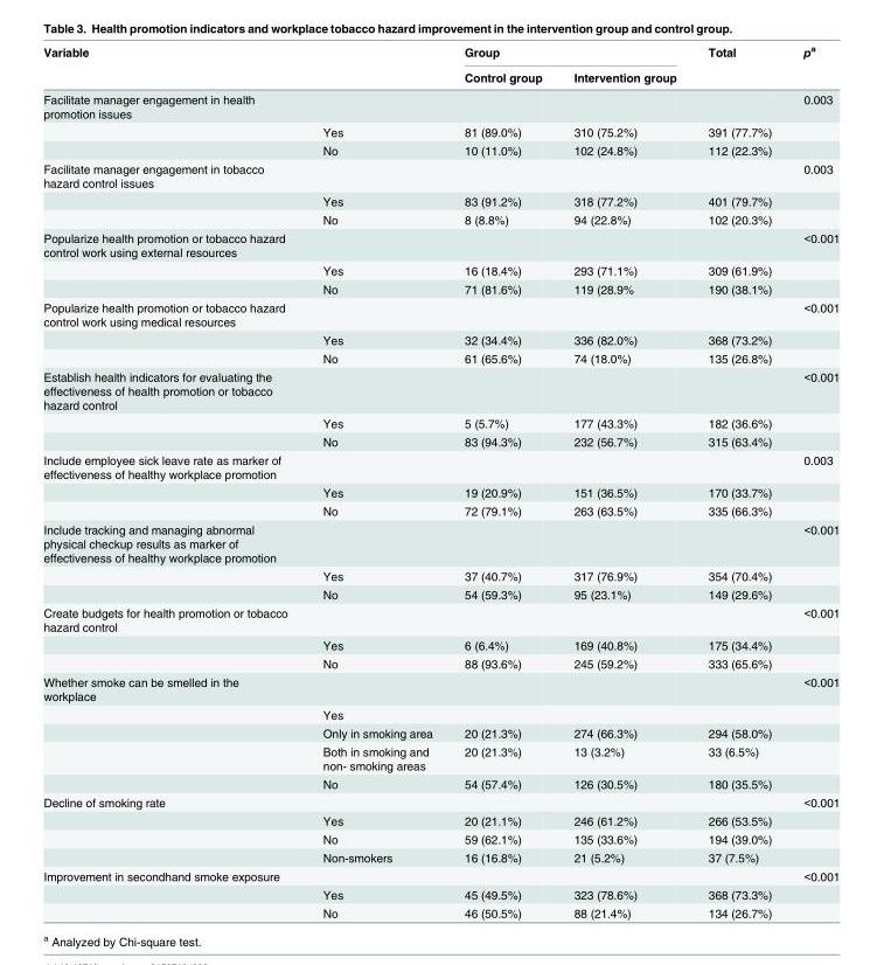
<table><thead><tr><td rowspan="2">Variable</td><td rowspan="2"></td><td colspan="2">Group</td><td rowspan="2">Total</td><td rowspan="2">p<sup>a</sup></td></tr><tr><td>Control group</td><td>Intervention group</td></tr></thead><tbody><tr><td rowspan="3">Facilitate manager engagement in health promotion issues</td><td></td><td></td><td></td><td></td><td>0.003</td></tr><tr><td>Yes</td><td>81 (89.0%)</td><td>310 (75.2%)</td><td>391 (77.7%)</td><td></td></tr><tr><td>No</td><td>10 (11.0%)</td><td>102 (24.8%)</td><td>112 (22.3%)</td><td></td></tr><tr><td rowspan="3">Facilitate manager engagement in tobacco hazard control issues</td><td></td><td></td><td></td><td></td><td>0.003</td></tr><tr><td>Yes</td><td>83 (91.2%)</td><td>318 (77.2%)</td><td>401 (79.7%)</td><td></td></tr><tr><td>No</td><td>8 (8.8%)</td><td>94 (22.8%)</td><td>102 (20.3%)</td><td></td></tr><tr><td rowspan="3">Popularize health promotion or tobacco hazard control work using external resources</td><td></td><td></td><td></td><td></td><td>&lt;0.001</td></tr><tr><td>Yes</td><td>16 (18.4%)</td><td>293 (71.1%)</td><td>309 (61.9%)</td><td></td></tr><tr><td>No</td><td>71 (81.6%)</td><td>119 (28.9%</td><td>190 (38.1%)</td><td></td></tr><tr><td rowspan="3">Popularize health promotion or tobacco hazard control work using medical resources</td><td></td><td></td><td></td><td></td><td>&lt;0.001</td></tr><tr><td>Yes</td><td>32 (34.4%)</td><td>336 (82.0%)</td><td>368 (73.2%)</td><td></td></tr><tr><td>No</td><td>61 (65.6%)</td><td>74 (18.0%)</td><td>135 (26.8%)</td><td></td></tr><tr><td rowspan="3">Establish health indicators for evaluating the effectiveness of health promotion or tobacco hazard control</td><td></td><td></td><td></td><td></td><td>&lt;0.001</td></tr><tr><td>Yes</td><td>5 (5.7%)</td><td>177 (43.3%)</td><td>182 (36.6%)</td><td></td></tr><tr><td>No</td><td>83 (94.3%)</td><td>232 (56.7%)</td><td>315 (63.4%)</td><td></td></tr><tr><td rowspan="3">Include employee sick leave rate as marker of effectiveness of healthy workplace promotion</td><td></td><td></td><td></td><td></td><td>0.003</td></tr><tr><td>Yes</td><td>19 (20.9%)</td><td>151 (36.5%)</td><td>170 (33.7%)</td><td></td></tr><tr><td>No</td><td>72 (79.1%)</td><td>263 (63.5%)</td><td>335 (66.3%)</td><td></td></tr><tr><td rowspan="3">Include tracking and managing abnormal physical checkup results as marker of effectiveness of healthy workplace promotion</td><td></td><td></td><td></td><td></td><td>&lt;0.001</td></tr><tr><td>Yes</td><td>37 (40.7%)</td><td>317 (76.9%)</td><td>354 (70.4%)</td><td></td></tr><tr><td>No</td><td>54 (59.3%)</td><td>95 (23.1%)</td><td>149 (29.6%)</td><td></td></tr><tr><td rowspan="3">Create budgets for health promotion or tobacco hazard control</td><td></td><td></td><td></td><td></td><td>&lt;0.001</td></tr><tr><td>Yes</td><td>6 (6.4%)</td><td>169 (40.8%)</td><td>175 (34.4%)</td><td></td></tr><tr><td>No</td><td>88 (93.6%)</td><td>245 (59.2%)</td><td>333 (65.6%)</td><td></td></tr><tr><td rowspan="5">Whether smoke can be smelled in the workplace</td><td></td><td></td><td></td><td></td><td>&lt;0.001</td></tr><tr><td>Yes</td><td></td><td></td><td></td><td></td></tr><tr><td>Only in smoking area</td><td>20 (21.3%)</td><td>274 (66.3%)</td><td>294 (58.0%)</td><td></td></tr><tr><td>Both in smoking and non- smoking areas</td><td>20 (21.3%)</td><td>13 (3.2%)</td><td>33 (6.5%)</td><td></td></tr><tr><td>No</td><td>54 (57.4%)</td><td>126 (30.5%)</td><td>180 (35.5%)</td><td></td></tr><tr><td rowspan="4">Decline of smoking rate</td><td></td><td></td><td></td><td></td><td>&lt;0.001</td></tr><tr><td>Yes</td><td>20 (21.1%)</td><td>246 (61.2%)</td><td>266 (53.5%)</td><td></td></tr><tr><td>No</td><td>59 (62.1%)</td><td>135 (33.6%)</td><td>194 (39.0%)</td><td></td></tr><tr><td>Non-smokers</td><td>16 (16.8%)</td><td>21 (5.2%)</td><td>37 (7.5%)</td><td></td></tr><tr><td rowspan="3">Improvement in secondhand smoke exposure</td><td></td><td></td><td></td><td></td><td>&lt;0.001</td></tr><tr><td>Yes</td><td>45 (49.5%)</td><td>323 (78.6%)</td><td>368 (73.3%)</td><td></td></tr><tr><td>No</td><td>46 (50.5%)</td><td>88 (21.4%)</td><td>134 (26.7%)</td><td></td></tr></tbody></table>